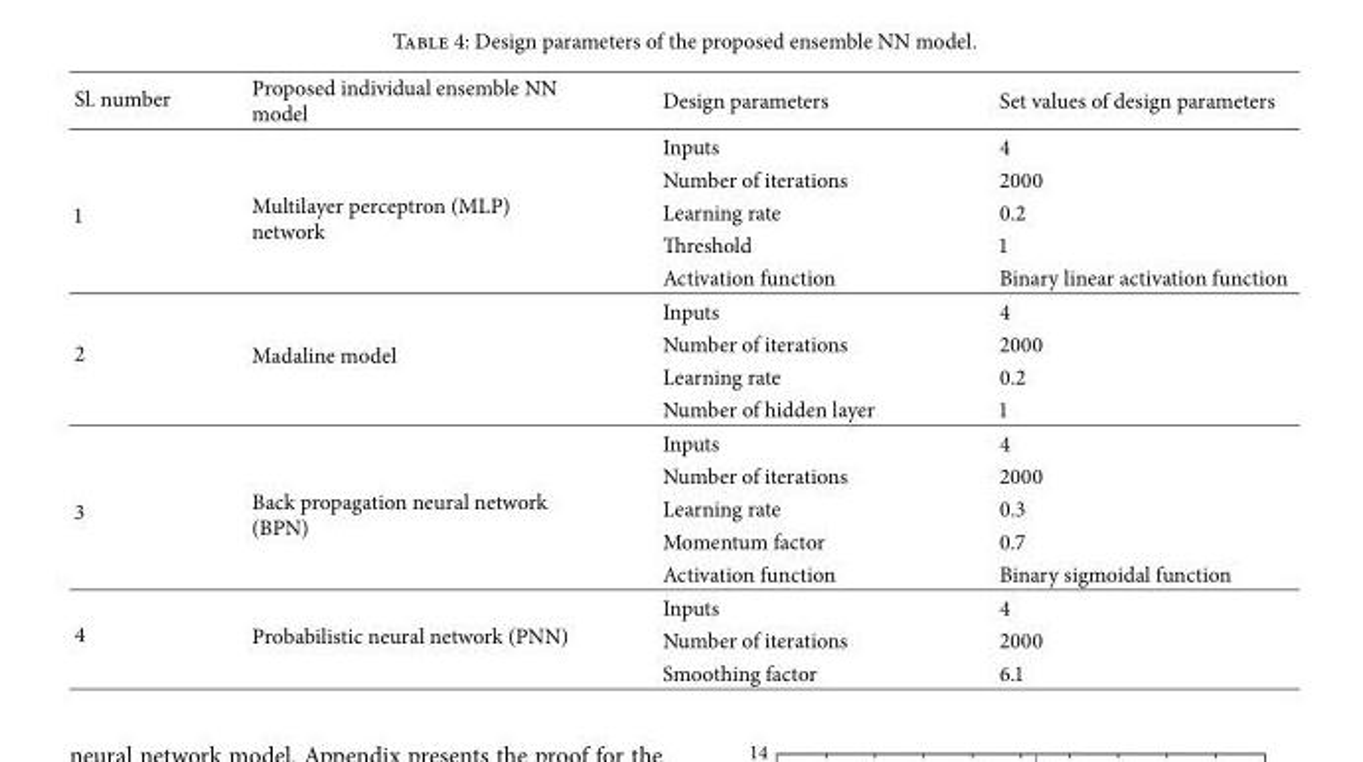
<table><thead><tr><td>Sl. number</td><td>Proposed individual ensemble NN model</td><td>Design parameters</td><td>Set values of design parameters</td></tr></thead><tbody><tr><td rowspan="5">1</td><td rowspan="5">Multilayer perceptron (MLP) network</td><td>Inputs</td><td>4</td></tr><tr><td>Number of iterations</td><td>2000</td></tr><tr><td>Learning rate</td><td>0.2</td></tr><tr><td>Threshold</td><td>1</td></tr><tr><td>Activation function</td><td>Binary linear activation function</td></tr><tr><td rowspan="4">2</td><td rowspan="4">Madaline model</td><td>Inputs</td><td>4</td></tr><tr><td>Number of iterations</td><td>2000</td></tr><tr><td>Learning rate</td><td>0.2</td></tr><tr><td>Number of hidden layer</td><td>1</td></tr><tr><td rowspan="5">3</td><td rowspan="5">Back propagation neural network (BPN)</td><td>Inputs</td><td>4</td></tr><tr><td>Number of iterations</td><td>2000</td></tr><tr><td>Learning rate</td><td>0.3</td></tr><tr><td>Momentum factor</td><td>0.7</td></tr><tr><td>Activation function</td><td>Binary sigmoidal function</td></tr><tr><td rowspan="3">4</td><td rowspan="3">Probabilistic neural network (PNN)</td><td>Inputs</td><td>4</td></tr><tr><td>Number of iterations</td><td>2000</td></tr><tr><td>Smoothing factor</td><td>6.1</td></tr></tbody></table>